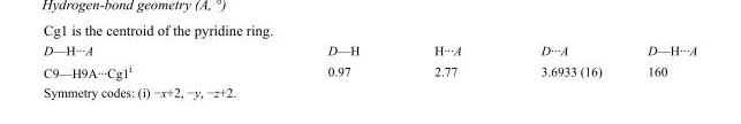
<table><tbody><tr><td>D—H···A</td><td>D—H</td><td>H···A</td><td>D···A</td><td>D—H···A</td></tr><tr><td>C9—H9A···Cg1<sup>i</sup></td><td>0.97</td><td>2.77</td><td>3.6933 (16)</td><td>160</td></tr></tbody></table>